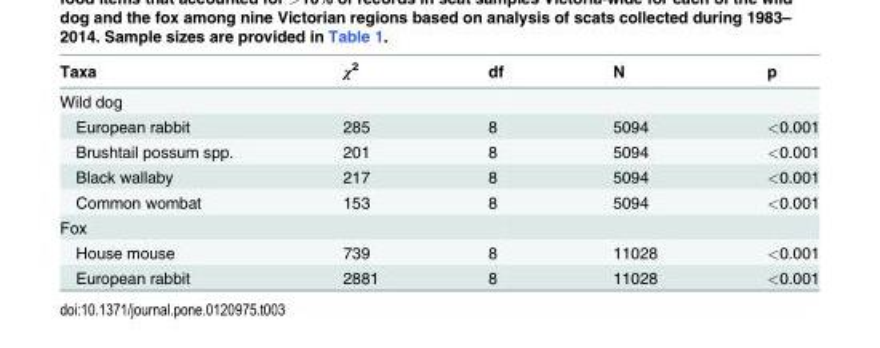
<table><thead><tr><td>Taxa</td><td>χ<sup>2</sup></td><td>df</td><td>N</td><td>p</td></tr></thead><tbody><tr><td colspan="5">Wild dog</td></tr><tr><td>European rabbit</td><td>285</td><td>8</td><td>5094</td><td>&lt;0.001</td></tr><tr><td>Brushtail possum spp.</td><td>201</td><td>8</td><td>5094</td><td>&lt;0.001</td></tr><tr><td>Black wallaby</td><td>217</td><td>8</td><td>5094</td><td>&lt;0.001</td></tr><tr><td>Common wombat</td><td>153</td><td>8</td><td>5094</td><td>&lt;0.001</td></tr><tr><td colspan="5">Fox</td></tr><tr><td>House mouse</td><td>739</td><td>8</td><td>11028</td><td>&lt;0.001</td></tr><tr><td>European rabbit</td><td>2881</td><td>8</td><td>11028</td><td>&lt;0.001</td></tr></tbody></table>